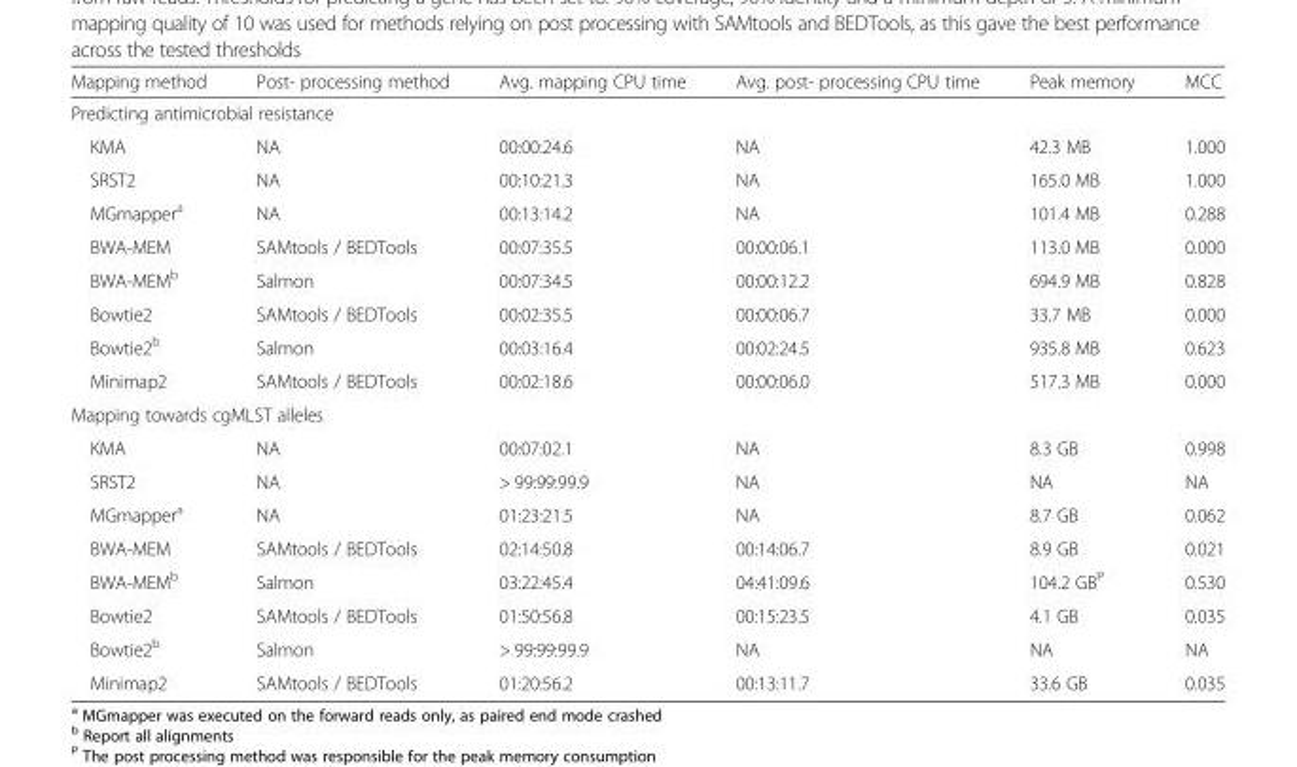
<table><thead><tr><td>Mapping method</td><td>Post- processing method</td><td>Avg. mapping CPU time</td><td>Avg. post- processing CPU time</td><td>Peak memory</td><td>MCC</td></tr></thead><tbody><tr><td colspan="6">Predicting antimicrobial resistance</td></tr><tr><td>KMA</td><td>NA</td><td>00:00:24.6</td><td>NA</td><td>42.3 MB</td><td>1.000</td></tr><tr><td>SRST2</td><td>NA</td><td>00:10:21.3</td><td>NA</td><td>165.0 MB</td><td>1.000</td></tr><tr><td>MGmapper<sup>a</sup></td><td>NA</td><td>00:13:14.2</td><td>NA</td><td>101.4 MB</td><td>0.288</td></tr><tr><td>BWA-MEM</td><td>SAMtools / BEDTools</td><td>00:07:35.5</td><td>00:00:06.1</td><td>113.0 MB</td><td>0.000</td></tr><tr><td>BWA-MEM<sup>b</sup></td><td>Salmon</td><td>00:07:34.5</td><td>00:00:12.2</td><td>694.9 MB</td><td>0.828</td></tr><tr><td>Bowtie2</td><td>SAMtools / BEDTools</td><td>00:02:35.5</td><td>00:00:06.7</td><td>33.7 MB</td><td>0.000</td></tr><tr><td>Bowtie2<sup>b</sup></td><td>Salmon</td><td>00:03:16.4</td><td>00:02:24.5</td><td>935.8 MB</td><td>0.623</td></tr><tr><td>Minimap2</td><td>SAMtools / BEDTools</td><td>00:02:18.6</td><td>00:00:06.0</td><td>517.3 MB</td><td>0.000</td></tr><tr><td colspan="6">Mapping towards cgMLST alleles</td></tr><tr><td>KMA</td><td>NA</td><td>00:07:02.1</td><td>NA</td><td>8.3 GB</td><td>0.998</td></tr><tr><td>SRST2</td><td>NA</td><td>&gt; 99:99:99.9</td><td>NA</td><td>NA</td><td>NA</td></tr><tr><td>MGmapper<sup>a</sup></td><td>NA</td><td>01:23:21.5</td><td>NA</td><td>8.7 GB</td><td>0.062</td></tr><tr><td>BWA-MEM</td><td>SAMtools / BEDTools</td><td>02:14:50.8</td><td>00:14:06.7</td><td>8.9 GB</td><td>0.021</td></tr><tr><td>BWA-MEM<sup>b</sup></td><td>Salmon</td><td>03:22:45.4</td><td>04:41:09.6</td><td>104.2 GB<sup>P</sup></td><td>0.530</td></tr><tr><td>Bowtie2</td><td>SAMtools / BEDTools</td><td>01:50:56.8</td><td>00:15:23.5</td><td>4.1 GB</td><td>0.035</td></tr><tr><td>Bowtie2<sup>b</sup></td><td>Salmon</td><td>&gt; 99:99:99.9</td><td>NA</td><td>NA</td><td>NA</td></tr><tr><td>Minimap2</td><td>SAMtools / BEDTools</td><td>01:20:56.2</td><td>00:13:11.7</td><td>33.6 GB</td><td>0.035</td></tr></tbody></table>